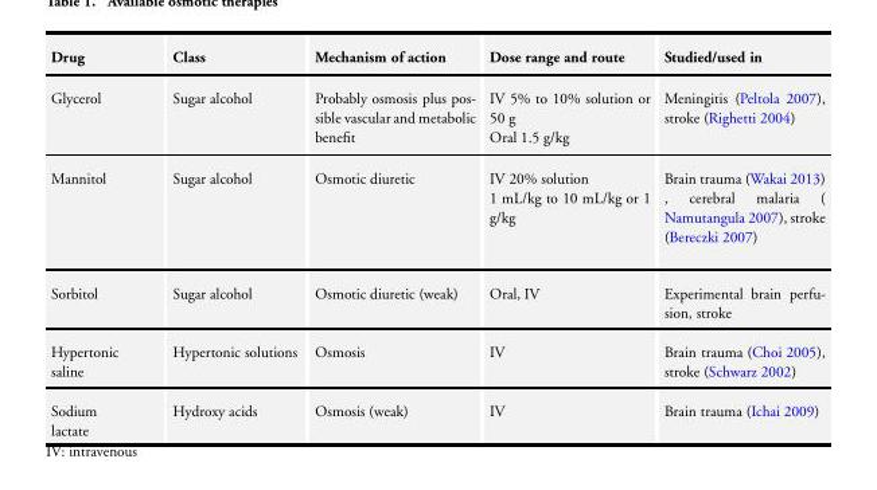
<table><tbody><tr><td>Drug</td><td>Class</td><td>Mechanism of action</td><td>Dose range and route</td><td>Studied/used in</td></tr><tr><td>Glycerol</td><td>Sugar alcohol</td><td>Probably osmosis plus pos- sible vascular and metabolic benefit</td><td>IV 5% to 10% solution or 50 g Oral 1.5 g/kg</td><td>Meningitis (Peltola 2007), stroke (Righetti 2004)</td></tr><tr><td>Mannitol</td><td>Sugar alcohol</td><td>Osmotic diuretic</td><td>IV 20% solution 1 mL/kg to 10 mL/kg or 1 g/kg</td><td>Brain trauma (Wakai 2013) , cerebral malaria ( Namutangula 2007), stroke (Bereczki 2007)</td></tr><tr><td>Sorbitol</td><td>Sugar alcohol</td><td>Osmotic diuretic (weak)</td><td>Oral, IV</td><td>Experimental brain perfu- sion, stroke</td></tr><tr><td>Hypertonic saline</td><td>Hypertonic solutions</td><td>Osmosis</td><td>IV</td><td>Brain trauma (Choi 2005), stroke (Schwarz 2002)</td></tr><tr><td>Sodium lactate</td><td>Hydroxy acids</td><td>Osmosis (weak)</td><td>IV</td><td>Brain trauma (Ichai 2009)</td></tr></tbody></table>